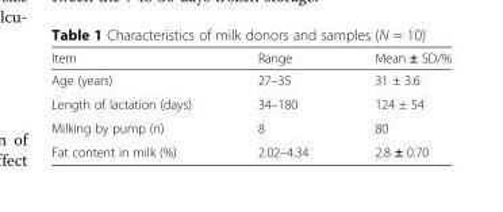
<table><thead><tr><td>Item</td><td>Range</td><td>Mean ± SD/%</td></tr></thead><tbody><tr><td>Age (years)</td><td>27–35</td><td>31 ± 3.6</td></tr><tr><td>Length of lactation (days)</td><td>34–180</td><td>124 ± 54</td></tr><tr><td>Milking by pump (n)</td><td>8</td><td>80</td></tr><tr><td>Fat content in milk (%)</td><td>2.02–4.34</td><td>2.8 ± 0.70</td></tr></tbody></table>